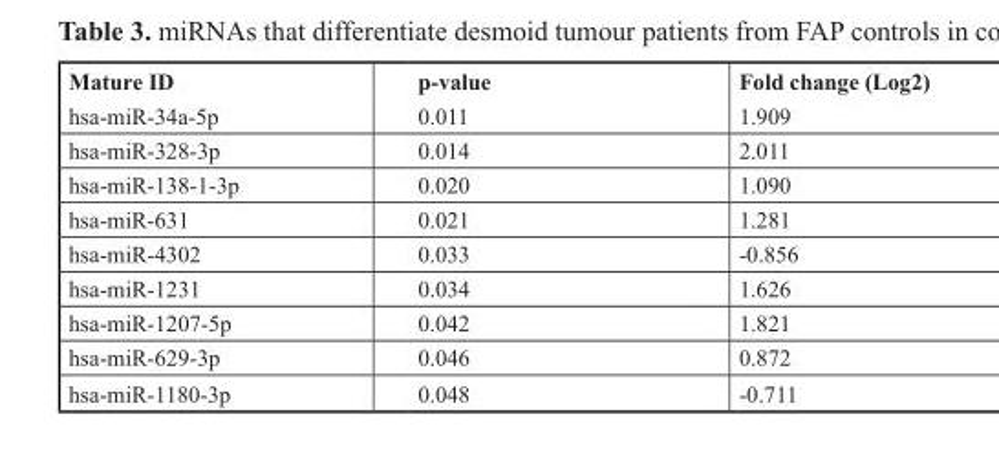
<table><thead><tr><td>Mature ID</td><td>p-value</td><td>Fold change (Log2)</td></tr></thead><tbody><tr><td>hsa-miR-34a-5p</td><td>0.011</td><td>1.909</td></tr><tr><td>hsa-miR-328-3p</td><td>0.014</td><td>2.011</td></tr><tr><td>hsa-miR-138-1-3p</td><td>0.020</td><td>1.090</td></tr><tr><td>hsa-miR-631</td><td>0.021</td><td>1.281</td></tr><tr><td>hsa-miR-4302</td><td>0.033</td><td>-0.856</td></tr><tr><td>hsa-miR-1231</td><td>0.034</td><td>1.626</td></tr><tr><td>hsa-miR-1207-5p</td><td>0.042</td><td>1.821</td></tr><tr><td>hsa-miR-629-3p</td><td>0.046</td><td>0.872</td></tr><tr><td>hsa-miR-1180-3p</td><td>0.048</td><td>-0.711</td></tr></tbody></table>